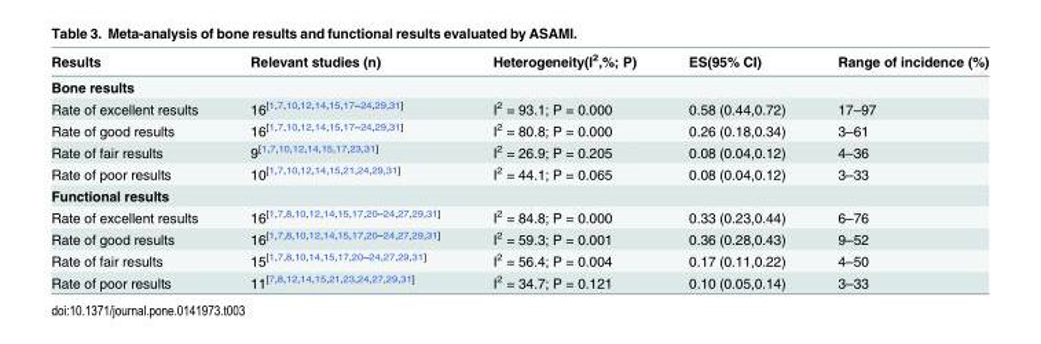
<table><thead><tr><td>Results</td><td>Relevant studies (n)</td><td>Heterogeneity(I<sup>2</sup>,%; P)</td><td>ES(95% CI)</td><td>Range of incidence (%)</td></tr></thead><tbody><tr><td colspan="5">Bone results</td></tr><tr><td>Rate of excellent results</td><td>16<sup>[1,7,10,12,14,15,17–24,29,31]</sup></td><td>I<sup>2</sup> = 93.1; P = 0.000</td><td>0.58 (0.44,0.72)</td><td>17–97</td></tr><tr><td>Rate of good results</td><td>16<sup>[1,7,10,12,14,15,17–24,29,31]</sup></td><td>I<sup>2</sup> = 80.8; P = 0.000</td><td>0.26 (0.18,0.34)</td><td>3–61</td></tr><tr><td>Rate of fair results</td><td>9<sup>[1,7,10,12,14,15,17,23,31]</sup></td><td>I<sup>2</sup> = 26.9; P = 0.205</td><td>0.08 (0.04,0.12)</td><td>4–36</td></tr><tr><td>Rate of poor results</td><td>10<sup>[1,7,10,12,14,15,21,24,29,31]</sup></td><td>I<sup>2</sup> = 44.1; P = 0.065</td><td>0.08 (0.04,0.12)</td><td>3–33</td></tr><tr><td colspan="5">Functional results</td></tr><tr><td>Rate of excellent results</td><td>16<sup>[1,7,8,10,12,14,15,17,20–24,27,29,31]</sup></td><td>I<sup>2</sup> = 84.8; P = 0.000</td><td>0.33 (0.23,0.44)</td><td>6–76</td></tr><tr><td>Rate of good results</td><td>16<sup>[1,7,8,10,12,14,15,17,20–24,27,29,31]</sup></td><td>I<sup>2</sup> = 59.3; P = 0.001</td><td>0.36 (0.28,0.43)</td><td>9–52</td></tr><tr><td>Rate of fair results</td><td>15<sup>[1,7,8,10,14,15,17,20–24,27,29,31]</sup></td><td>I<sup>2</sup> = 56.4; P = 0.004</td><td>0.17 (0.11,0.22)</td><td>4–50</td></tr><tr><td>Rate of poor results</td><td>11<sup>[7,8,12,14,15,21,23,24,27,29,31]</sup></td><td>I<sup>2</sup> = 34.7; P = 0.121</td><td>0.10 (0.05,0.14)</td><td>3–33</td></tr></tbody></table>